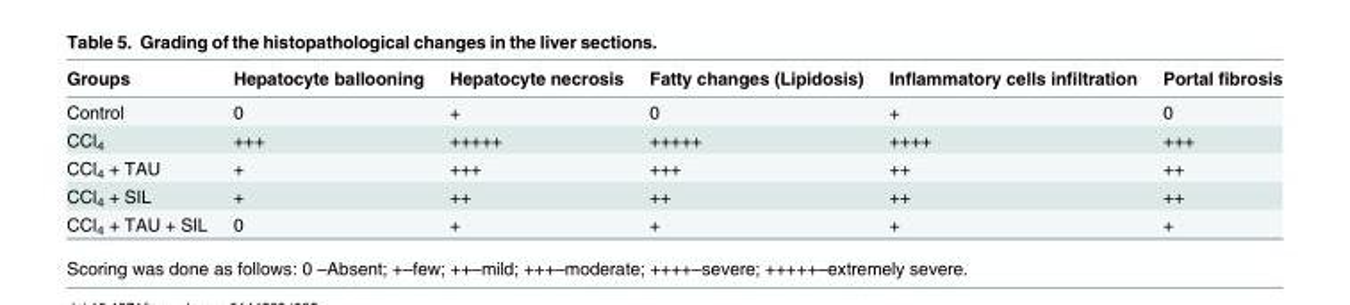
<table><thead><tr><td>Groups</td><td>Hepatocyte ballooning</td><td>Hepatocyte necrosis</td><td>Fatty changes (Lipidosis)</td><td>Inflammatory cells infiltration</td><td>Portal fibrosis</td></tr></thead><tbody><tr><td>Control</td><td>0</td><td>+</td><td>0</td><td>+</td><td>0</td></tr><tr><td>CCl<sub>4</sub></td><td>+++</td><td>+++++</td><td>+++++</td><td>++++</td><td>+++</td></tr><tr><td>CCl<sub>4</sub> + TAU</td><td>+</td><td>+++</td><td>+++</td><td>++</td><td>++</td></tr><tr><td>CCl<sub>4</sub> + SIL</td><td>+</td><td>++</td><td>++</td><td>++</td><td>++</td></tr><tr><td>CCl<sub>4</sub> + TAU + SIL</td><td>0</td><td>+</td><td>+</td><td>+</td><td>+</td></tr></tbody></table>